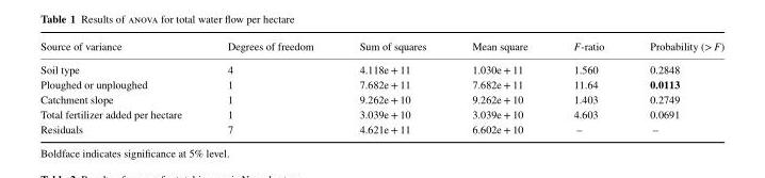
<table><thead><tr><td>Source of variance</td><td>Degrees of freedom</td><td>Sum of squares</td><td>Mean square</td><td>F-ratio</td><td>Probability (&gt; F)</td></tr></thead><tbody><tr><td>Soil type</td><td>4</td><td>4.118e + 11</td><td>1.030e + 11</td><td>1.560</td><td>0.2848</td></tr><tr><td>Ploughed or unploughed</td><td>1</td><td>7.682e + 11</td><td>7.682e + 11</td><td>11.64</td><td>0.0113</td></tr><tr><td>Catchment slope</td><td>1</td><td>9.262e + 10</td><td>9.262e + 10</td><td>1.403</td><td>0.2749</td></tr><tr><td>Total fertilizer added per hectare</td><td>1</td><td>3.039e + 10</td><td>3.039e + 10</td><td>4.603</td><td>0.0691</td></tr><tr><td>Residuals</td><td>7</td><td>4.621e + 11</td><td>6.602e + 10</td><td>–</td><td>–</td></tr></tbody></table>